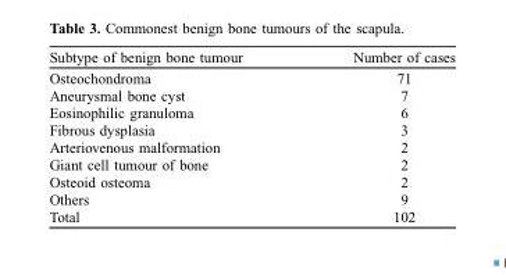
<table><thead><tr><td>Subtype of benign bone tumour</td><td>Number of cases</td></tr></thead><tbody><tr><td>Osteochondroma</td><td>71</td></tr><tr><td>Aneurysmal bone cyst</td><td>7</td></tr><tr><td>Eosinophilic granuloma</td><td>6</td></tr><tr><td>Fibrous dysplasia</td><td>3</td></tr><tr><td>Arteriovenous malformation</td><td>2</td></tr><tr><td>Giant cell tumour of bone</td><td>2</td></tr><tr><td>Osteoid osteoma</td><td>2</td></tr><tr><td>Others</td><td>9</td></tr><tr><td>Total</td><td>102</td></tr></tbody></table>